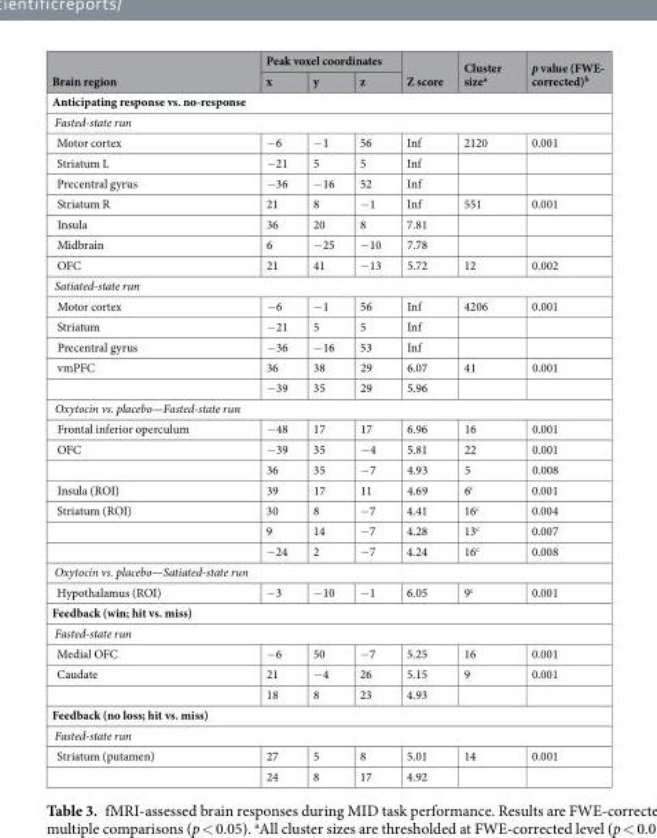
<table><thead><tr><td rowspan="2">Brain region</td><td colspan="3">Peak voxel coordinates</td><td rowspan="2">Z score</td><td rowspan="2">Cluster size<sup>a</sup></td><td rowspan="2">p value (FWE- corrected)<sup>b</sup></td></tr><tr><td>x</td><td>y</td><td>z</td></tr></thead><tbody><tr><td colspan="7">Anticipating response vs. no-response</td></tr><tr><td colspan="7">Fasted-state run</td></tr><tr><td>Motor cortex</td><td>−6</td><td>−1</td><td>56</td><td>Inf</td><td>2120</td><td>0.001</td></tr><tr><td>Striatum L</td><td>−21</td><td>5</td><td>5</td><td>Inf</td><td></td><td></td></tr><tr><td>Precentral gyrus</td><td>−36</td><td>−16</td><td>52</td><td>Inf</td><td></td><td></td></tr><tr><td>Striatum R</td><td>21</td><td>8</td><td>−1</td><td>Inf</td><td>551</td><td>0.001</td></tr><tr><td>Insula</td><td>36</td><td>20</td><td>8</td><td>7.81</td><td></td><td></td></tr><tr><td>Midbrain</td><td>6</td><td>−25</td><td>−10</td><td>7.78</td><td></td><td></td></tr><tr><td>OFC</td><td>21</td><td>41</td><td>−13</td><td>5.72</td><td>12</td><td>0.002</td></tr><tr><td colspan="7">Satiated-state run</td></tr><tr><td>Motor cortex</td><td>−6</td><td>−1</td><td>56</td><td>Inf</td><td>4206</td><td>0.001</td></tr><tr><td>Striatum</td><td>−21</td><td>5</td><td>5</td><td>Inf</td><td></td><td></td></tr><tr><td>Precentral gyrus</td><td>−36</td><td>−16</td><td>53</td><td>Inf</td><td></td><td></td></tr><tr><td rowspan="2">vmPFC</td><td>36</td><td>38</td><td>29</td><td>6.07</td><td>41</td><td>0.001</td></tr><tr><td>−39</td><td>35</td><td>29</td><td>5.96</td><td></td><td></td></tr><tr><td colspan="7">Oxytocin vs. placebo—Fasted-state run</td></tr><tr><td>Frontal inferior operculum</td><td>−48</td><td>17</td><td>17</td><td>6.96</td><td>16</td><td>0.001</td></tr><tr><td rowspan="2">OFC</td><td>−39</td><td>35</td><td>−4</td><td>5.81</td><td>22</td><td>0.001</td></tr><tr><td>36</td><td>35</td><td>−7</td><td>4.93</td><td>5</td><td>0.008</td></tr><tr><td>Insula (ROI)</td><td>39</td><td>17</td><td>11</td><td>4.69</td><td>6<sup>c</sup></td><td>0.001</td></tr><tr><td rowspan="3">Striatum (ROI)</td><td>30</td><td>8</td><td>−7</td><td>4.41</td><td>16<sup>c</sup></td><td>0.004</td></tr><tr><td>9</td><td>14</td><td>−7</td><td>4.28</td><td>13<sup>c</sup></td><td>0.007</td></tr><tr><td>−24</td><td>2</td><td>−7</td><td>4.24</td><td>16<sup>c</sup></td><td>0.008</td></tr><tr><td colspan="7">Oxytocin vs. placebo—Satiated-state run</td></tr><tr><td>Hypothalamus (ROI)</td><td>−3</td><td>−10</td><td>−1</td><td>6.05</td><td>9<sup>c</sup></td><td>0.001</td></tr><tr><td colspan="7">Feedback (win; hit vs. miss)</td></tr><tr><td colspan="7">Fasted-state run</td></tr><tr><td>Medial OFC</td><td>−6</td><td>50</td><td>−7</td><td>5.25</td><td>16</td><td>0.001</td></tr><tr><td rowspan="2">Caudate</td><td>21</td><td>−4</td><td>26</td><td>5.15</td><td>9</td><td>0.001</td></tr><tr><td>18</td><td>8</td><td>23</td><td>4.93</td><td></td><td></td></tr><tr><td colspan="7">Feedback (no loss; hit vs. miss)</td></tr><tr><td colspan="7">Fasted-state run</td></tr><tr><td rowspan="2">Striatum (putamen)</td><td>27</td><td>5</td><td>8</td><td>5.01</td><td>14</td><td>0.001</td></tr><tr><td>24</td><td>8</td><td>17</td><td>4.92</td><td></td><td></td></tr></tbody></table>